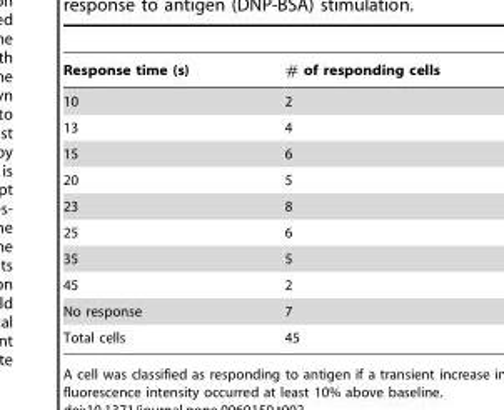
<table><thead><tr><td>Response time (s)</td><td># of responding cells</td></tr></thead><tbody><tr><td>10</td><td>2</td></tr><tr><td>13</td><td>4</td></tr><tr><td>15</td><td>6</td></tr><tr><td>20</td><td>5</td></tr><tr><td>23</td><td>8</td></tr><tr><td>25</td><td>6</td></tr><tr><td>35</td><td>5</td></tr><tr><td>45</td><td>2</td></tr><tr><td>No response</td><td>7</td></tr><tr><td>Total cells</td><td>45</td></tr></tbody></table>